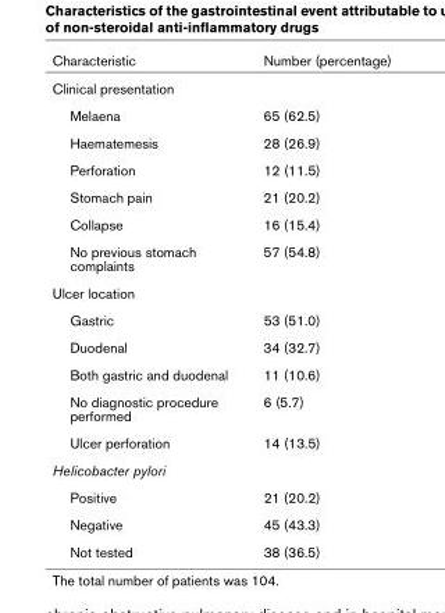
<table><thead><tr><td>Characteristic</td><td>Number (percentage)</td></tr></thead><tbody><tr><td colspan="2">Clinical presentation</td></tr><tr><td>Melaena</td><td>65 (62.5)</td></tr><tr><td>Haematemesis</td><td>28 (26.9)</td></tr><tr><td>Perforation</td><td>12 (11.5)</td></tr><tr><td>Stomach pain</td><td>21 (20.2)</td></tr><tr><td>Collapse</td><td>16 (15.4)</td></tr><tr><td>No previous stomach complaints</td><td>57 (54.8)</td></tr><tr><td colspan="2">Ulcer location</td></tr><tr><td>Gastric</td><td>53 (51.0)</td></tr><tr><td>Duodenal</td><td>34 (32.7)</td></tr><tr><td>Both gastric and duodenal</td><td>11 (10.6)</td></tr><tr><td>No diagnostic procedure performed</td><td>6 (5.7)</td></tr><tr><td>Ulcer perforation</td><td>14 (13.5)</td></tr><tr><td colspan="2">Helicobacter pylori</td></tr><tr><td>Positive</td><td>21 (20.2)</td></tr><tr><td>Negative</td><td>45 (43.3)</td></tr><tr><td>Not tested</td><td>38 (36.5)</td></tr></tbody></table>